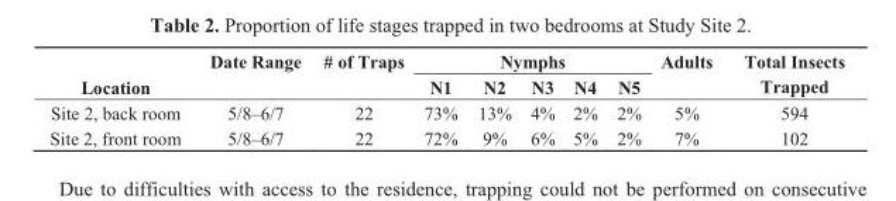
<table><thead><tr><td rowspan="2">Location</td><td rowspan="2">Date Range</td><td rowspan="2"># of Traps</td><td colspan="5">Nymphs</td><td rowspan="2">Adults</td><td rowspan="2">Total Insects Trapped</td></tr><tr><td>N1</td><td>N2</td><td>N3</td><td>N4</td><td>N5</td></tr></thead><tbody><tr><td>Site 2, back room</td><td>5/8–6/7</td><td>22</td><td>73%</td><td>13%</td><td>4%</td><td>2%</td><td>2%</td><td>5%</td><td>594</td></tr><tr><td>Site 2, front room</td><td>5/8–6/7</td><td>22</td><td>72%</td><td>9%</td><td>6%</td><td>5%</td><td>2%</td><td>7%</td><td>102</td></tr></tbody></table>